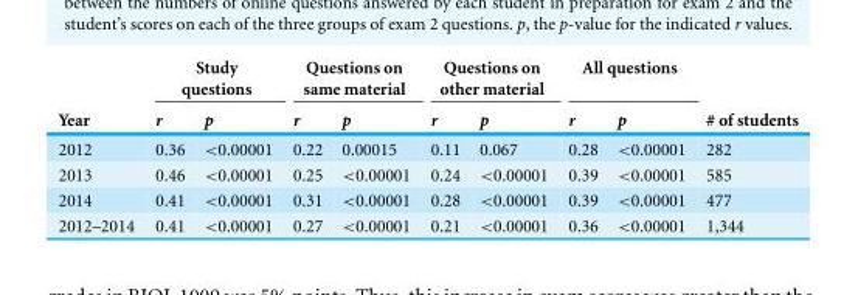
<table><thead><tr><td rowspan="2">Year</td><td colspan="2">Study questions</td><td colspan="2">Questions on same material</td><td colspan="2">Questions on other material</td><td colspan="2">All questions</td><td rowspan="2"># of students</td></tr><tr><td>r</td><td>p</td><td>r</td><td>p</td><td>r</td><td>p</td><td>r</td><td>p</td></tr></thead><tbody><tr><td>2012</td><td>0.36</td><td>&lt;0.00001</td><td>0.22</td><td>0.00015</td><td>0.11</td><td>0.067</td><td>0.28</td><td>&lt;0.00001</td><td>282</td></tr><tr><td>2013</td><td>0.46</td><td>&lt;0.00001</td><td>0.25</td><td>&lt;0.00001</td><td>0.24</td><td>&lt;0.00001</td><td>0.39</td><td>&lt;0.00001</td><td>585</td></tr><tr><td>2014</td><td>0.41</td><td>&lt;0.00001</td><td>0.31</td><td>&lt;0.00001</td><td>0.28</td><td>&lt;0.00001</td><td>0.39</td><td>&lt;0.00001</td><td>477</td></tr><tr><td>2012–2014</td><td>0.41</td><td>&lt;0.00001</td><td>0.27</td><td>&lt;0.00001</td><td>0.21</td><td>&lt;0.00001</td><td>0.36</td><td>&lt;0.00001</td><td>1,344</td></tr></tbody></table>